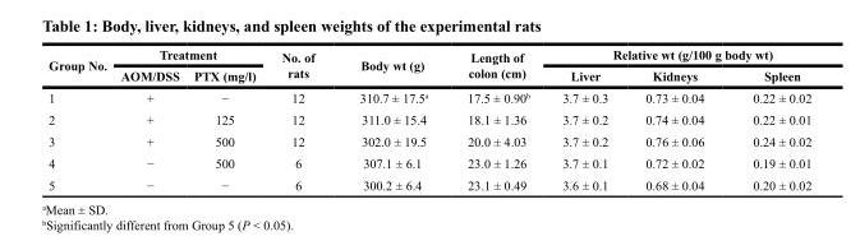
<table><thead><tr><td rowspan="2">Group No.</td><td colspan="2">Treatment</td><td rowspan="2">No. of rats</td><td rowspan="2">Body wt (g)</td><td rowspan="2">Length of colon (cm)</td><td colspan="3">Relative wt (g/100 g body wt)</td></tr><tr><td>AOM/DSS</td><td>PTX (mg/l)</td><td>Liver</td><td>Kidneys</td><td>Spleen</td></tr></thead><tbody><tr><td>1</td><td>+</td><td>−</td><td>12</td><td>310.7 ± 17.5<sup>a</sup></td><td>17.5 ± 0.90<sup>b</sup></td><td>3.7 ± 0.3</td><td>0.73 ± 0.04</td><td>0.22 ± 0.02</td></tr><tr><td>2</td><td>+</td><td>125</td><td>12</td><td>311.0 ± 15.4</td><td>18.1 ± 1.36</td><td>3.7 ± 0.2</td><td>0.74 ± 0.04</td><td>0.22 ± 0.01</td></tr><tr><td>3</td><td>+</td><td>500</td><td>12</td><td>302.0 ± 19.5</td><td>20.0 ± 4.03</td><td>3.7 ± 0.2</td><td>0.76 ± 0.06</td><td>0.24 ± 0.02</td></tr><tr><td>4</td><td>−</td><td>500</td><td>6</td><td>307.1 ± 6.1</td><td>23.0 ± 1.26</td><td>3.7 ± 0.1</td><td>0.72 ± 0.02</td><td>0.19 ± 0.01</td></tr><tr><td>5</td><td>−</td><td>−</td><td>6</td><td>300.2 ± 6.4</td><td>23.1 ± 0.49</td><td>3.6 ± 0.1</td><td>0.68 ± 0.04</td><td>0.20 ± 0.02</td></tr></tbody></table>